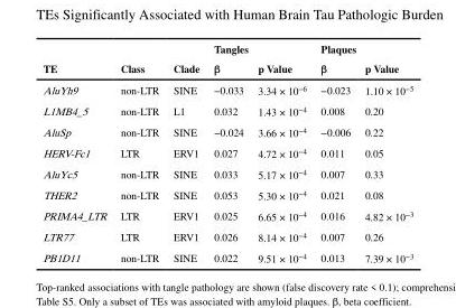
<table><thead><tr><td rowspan="2">TE</td><td rowspan="2">Class</td><td rowspan="2">Clade</td><td colspan="2">Tangles</td><td colspan="2">Plaques</td></tr><tr><td>β</td><td>p Value</td><td>β</td><td>p Value</td></tr></thead><tbody><tr><td>AluYh9</td><td>non-LTR</td><td>SINE</td><td>−0.033</td><td>3.34 × 10<sup>−6</sup></td><td>−0.023</td><td>1.10 × 10<sup>−5</sup></td></tr><tr><td>L1MB4_5</td><td>non-LTR</td><td>L1</td><td>0.032</td><td>1.43 × 10<sup>−4</sup></td><td>0.008</td><td>0.20</td></tr><tr><td>AluSp</td><td>non-LTR</td><td>SINE</td><td>−0.024</td><td>3.66 × 10<sup>−4</sup></td><td>−0.006</td><td>0.22</td></tr><tr><td>HERV-Fc1</td><td>LTR</td><td>ERV1</td><td>0.027</td><td>4.72 × 10<sup>−4</sup></td><td>0.011</td><td>0.05</td></tr><tr><td>AluYc5</td><td>non-LTR</td><td>SINE</td><td>0.033</td><td>5.17 × 10<sup>−4</sup></td><td>0.007</td><td>0.33</td></tr><tr><td>THER2</td><td>non-LTR</td><td>SINE</td><td>0.053</td><td>5.30 × 10<sup>−4</sup></td><td>0.021</td><td>0.08</td></tr><tr><td>PRIMA4_LTR</td><td>LTR</td><td>ERV1</td><td>0.025</td><td>6.65 × 10<sup>−4</sup></td><td>0.016</td><td>4.82 × 10<sup>−3</sup></td></tr><tr><td>LTR77</td><td>LTR</td><td>ERV1</td><td>0.026</td><td>8.14 × 10<sup>−4</sup></td><td>0.007</td><td>0.26</td></tr><tr><td>PB1D11</td><td>non-LTR</td><td>SINE</td><td>0.022</td><td>9.51 × 10<sup>−4</sup></td><td>0.013</td><td>7.39 × 10<sup>−3</sup></td></tr></tbody></table>